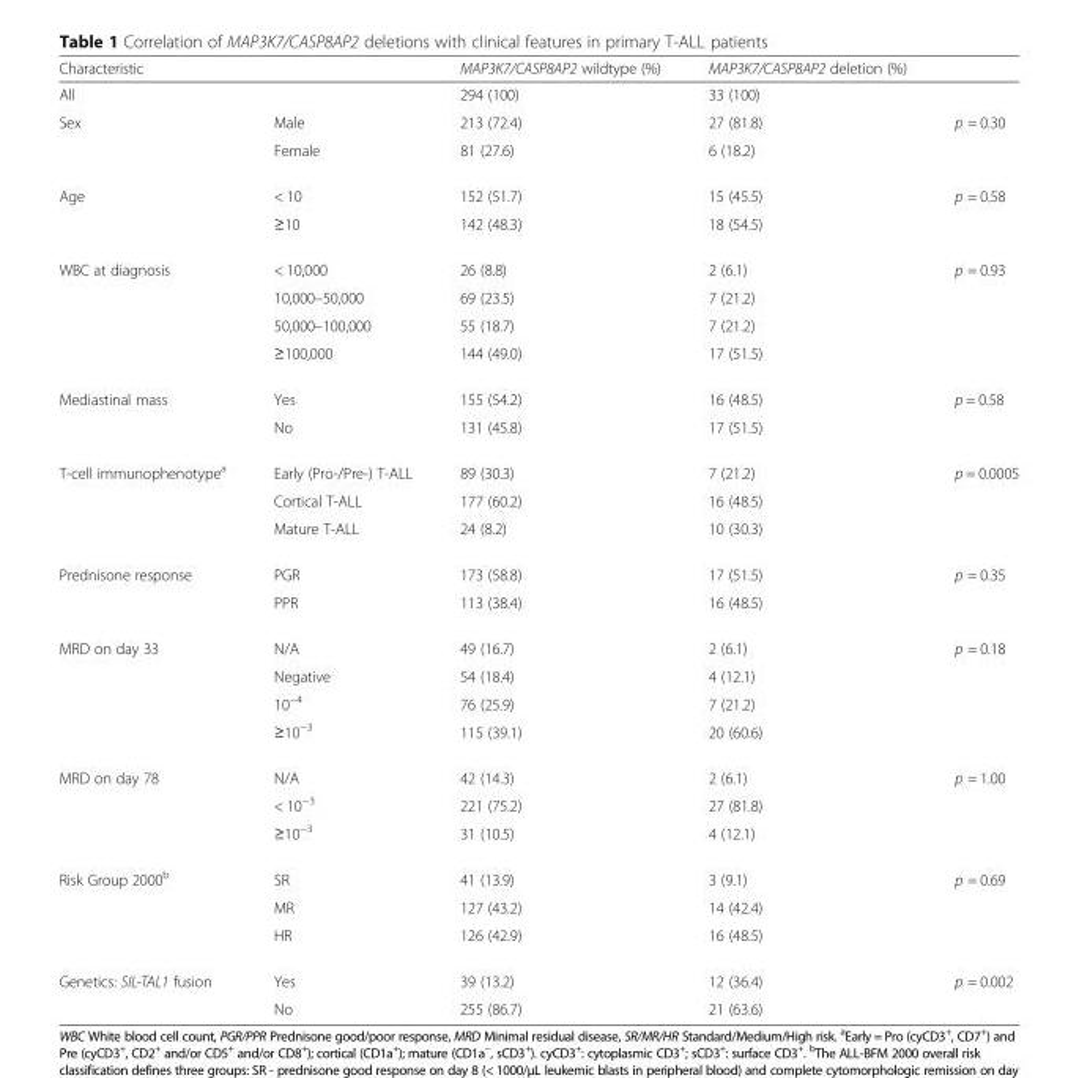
<table><thead><tr><td>Characteristic</td><td></td><td>MAP3K7/CASP8AP2 wildtype (%)</td><td>MAP3K7/CASP8AP2 deletion (%)</td><td></td></tr></thead><tbody><tr><td>All</td><td></td><td>294 (100)</td><td>33 (100)</td><td></td></tr><tr><td rowspan="2">Sex</td><td>Male</td><td>213 (72.4)</td><td>27 (81.8)</td><td>p = 0.30</td></tr><tr><td>Female</td><td>81 (27.6)</td><td>6 (18.2)</td><td></td></tr><tr><td rowspan="2">Age</td><td>&lt; 10</td><td>152 (51.7)</td><td>15 (45.5)</td><td>p = 0.58</td></tr><tr><td>≥10</td><td>142 (48.3)</td><td>18 (54.5)</td><td></td></tr><tr><td rowspan="4">WBC at diagnosis</td><td>&lt; 10,000</td><td>26 (8.8)</td><td>2 (6.1)</td><td>p = 0.93</td></tr><tr><td>10,000–50,000</td><td>69 (23.5)</td><td>7 (21.2)</td><td></td></tr><tr><td>50,000–100,000</td><td>55 (18.7)</td><td>7 (21.2)</td><td></td></tr><tr><td>≥100,000</td><td>144 (49.0)</td><td>17 (51.5)</td><td></td></tr><tr><td rowspan="2">Mediastinal mass</td><td>Yes</td><td>155 (54.2)</td><td>16 (48.5)</td><td>p = 0.58</td></tr><tr><td>No</td><td>131 (45.8)</td><td>17 (51.5)</td><td></td></tr><tr><td rowspan="3">T-cell immunophenotype<sup>a</sup></td><td>Early (Pro-/Pre-) T-ALL</td><td>89 (30.3)</td><td>7 (21.2)</td><td>p = 0.0005</td></tr><tr><td>Cortical T-ALL</td><td>177 (60.2)</td><td>16 (48.5)</td><td></td></tr><tr><td>Mature T-ALL</td><td>24 (8.2)</td><td>10 (30.3)</td><td></td></tr><tr><td rowspan="2">Prednisone response</td><td>PGR</td><td>173 (58.8)</td><td>17 (51.5)</td><td>p = 0.35</td></tr><tr><td>PPR</td><td>113 (38.4)</td><td>16 (48.5)</td><td></td></tr><tr><td rowspan="4">MRD on day 33</td><td>N/A</td><td>49 (16.7)</td><td>2 (6.1)</td><td>p = 0.18</td></tr><tr><td>Negative</td><td>54 (18.4)</td><td>4 (12.1)</td><td></td></tr><tr><td>10<sup>−4</sup></td><td>76 (25.9)</td><td>7 (21.2)</td><td></td></tr><tr><td>≥10<sup>−3</sup></td><td>115 (39.1)</td><td>20 (60.6)</td><td></td></tr><tr><td rowspan="3">MRD on day 78</td><td>N/A</td><td>42 (14.3)</td><td>2 (6.1)</td><td>p = 1.00</td></tr><tr><td>&lt; 10<sup>−3</sup></td><td>221 (75.2)</td><td>27 (81.8)</td><td></td></tr><tr><td>≥10<sup>−3</sup></td><td>31 (10.5)</td><td>4 (12.1)</td><td></td></tr><tr><td rowspan="3">Risk Group 2000<sup>b</sup></td><td>SR</td><td>41 (13.9)</td><td>3 (9.1)</td><td>p = 0.69</td></tr><tr><td>MR</td><td>127 (43.2)</td><td>14 (42.4)</td><td></td></tr><tr><td>HR</td><td>126 (42.9)</td><td>16 (48.5)</td><td></td></tr><tr><td rowspan="2">Genetics: SIL-TAL1 fusion</td><td>Yes</td><td>39 (13.2)</td><td>12 (36.4)</td><td>p = 0.002</td></tr><tr><td>No</td><td>255 (86.7)</td><td>21 (63.6)</td><td></td></tr></tbody></table>